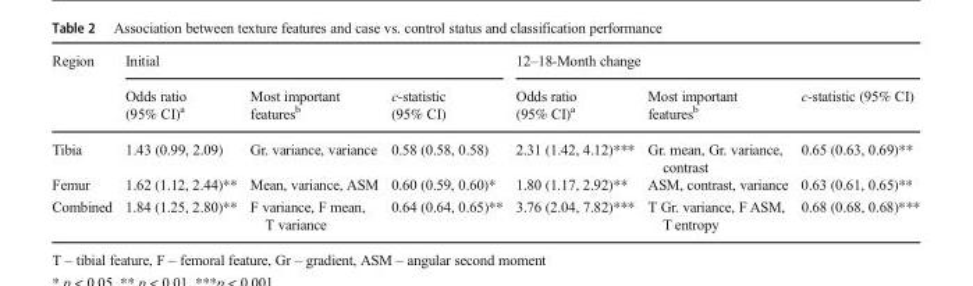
<table><thead><tr><td rowspan="2">Region</td><td colspan="3">Initial</td><td colspan="3">12–18-Month change</td></tr><tr><td>Odds ratio (95% CI)<sup>a</sup></td><td>Most important features<sup>b</sup></td><td>c-statistic (95% CI)</td><td>Odds ratio (95% CI)<sup>a</sup></td><td>Most important features<sup>b</sup></td><td>c-statistic (95% CI)</td></tr></thead><tbody><tr><td>Tibia</td><td>1.43 (0.99, 2.09)</td><td>Gr. variance, variance</td><td>0.58 (0.58, 0.58)</td><td>2.31 (1.42, 4.12)***</td><td>Gr. mean, Gr. variance, contrast</td><td>0.65 (0.63, 0.69)**</td></tr><tr><td>Femur</td><td>1.62 (1.12, 2.44)**</td><td>Mean, variance, ASM</td><td>0.60 (0.59, 0.60)*</td><td>1.80 (1.17, 2.92)**</td><td>ASM, contrast, variance</td><td>0.63 (0.61, 0.65)**</td></tr><tr><td>Combined</td><td>1.84 (1.25, 2.80)**</td><td>F variance, F mean, T variance</td><td>0.64 (0.64, 0.65)**</td><td>3.76 (2.04, 7.82)***</td><td>T Gr. variance, F ASM, T entropy</td><td>0.68 (0.68, 0.68)***</td></tr></tbody></table>